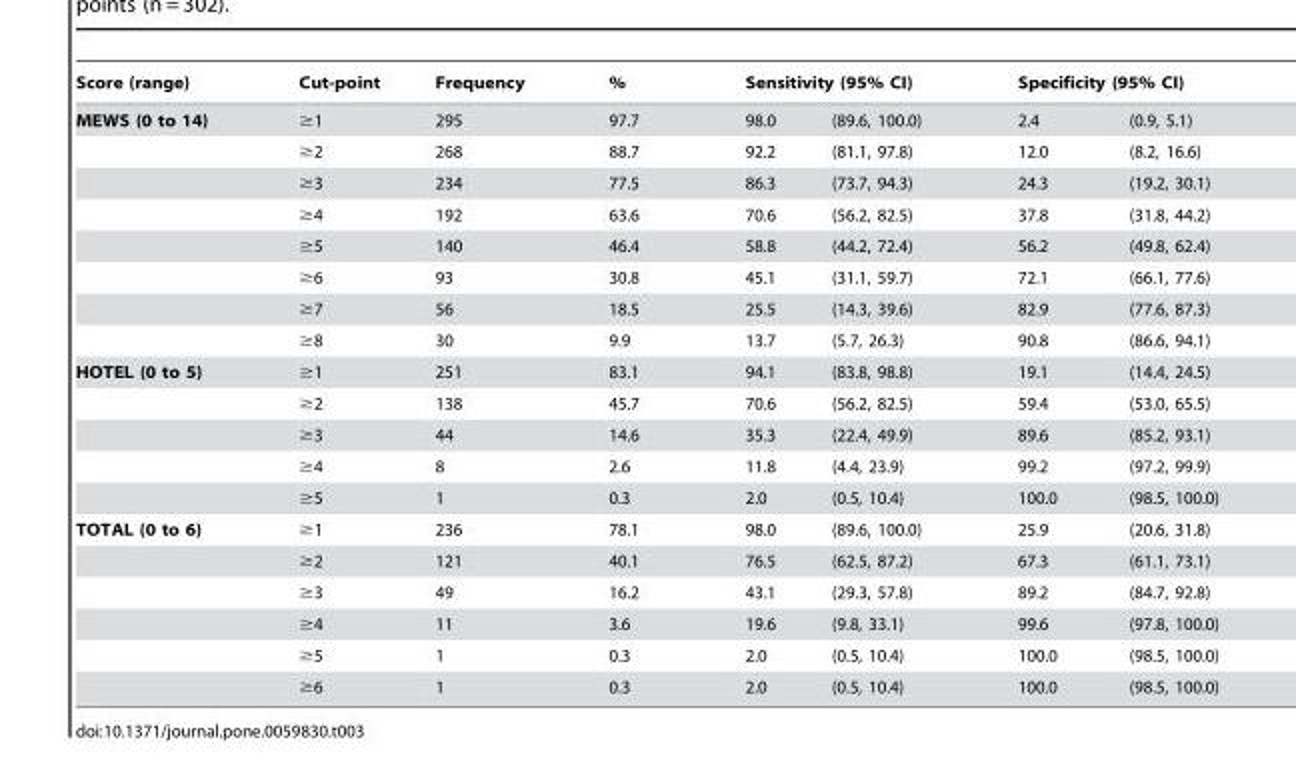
<table><thead><tr><td rowspan="2">Score (range) MEWS (0 to 14)</td><td rowspan="2">Cut-point ≥1</td><td rowspan="2">Frequency 295</td><td rowspan="2">% 97.7</td><td colspan="2">Sensitivity (95% CI)</td><td colspan="2">Specificity (95% CI)</td></tr><tr><td>98.0</td><td>(89.6, 100.0)</td><td>2.4</td><td>(0.9, 5.1)</td></tr></thead><tbody><tr><td></td><td>≥2</td><td>268</td><td>88.7</td><td>92.2</td><td>(81.1, 97.8)</td><td>12.0</td><td>(8.2, 16.6)</td></tr><tr><td></td><td>≥3</td><td>234</td><td>77.5</td><td>86.3</td><td>(73.7, 94.3)</td><td>24.3</td><td>(19.2, 30.1)</td></tr><tr><td></td><td>≥4</td><td>192</td><td>63.6</td><td>70.6</td><td>(56.2, 82.5)</td><td>37.8</td><td>(31.8, 44.2)</td></tr><tr><td></td><td>≥5</td><td>140</td><td>46.4</td><td>58.8</td><td>(44.2, 72.4)</td><td>56.2</td><td>(49.8, 62.4)</td></tr><tr><td></td><td>≥6</td><td>93</td><td>30.8</td><td>45.1</td><td>(31.1, 59.7)</td><td>72.1</td><td>(66.1, 77.6)</td></tr><tr><td></td><td>≥7</td><td>56</td><td>18.5</td><td>25.5</td><td>(14.3, 39.6)</td><td>82.9</td><td>(77.6, 87.3)</td></tr><tr><td></td><td>≥8</td><td>30</td><td>9.9</td><td>13.7</td><td>(5.7, 26.3)</td><td>90.8</td><td>(86.6, 94.1)</td></tr><tr><td rowspan="5">HOTEL (0 to 5)</td><td>≥1</td><td>251</td><td>83.1</td><td>94.1</td><td>(83.8, 98.8)</td><td>19.1</td><td>(14.4, 24.5)</td></tr><tr><td>≥2</td><td>138</td><td>45.7</td><td>70.6</td><td>(56.2, 82.5)</td><td>59.4</td><td>(53.0, 65.5)</td></tr><tr><td>≥3</td><td>44</td><td>14.6</td><td>35.3</td><td>(22.4, 49.9)</td><td>89.6</td><td>(85.2, 93.1)</td></tr><tr><td>≥4</td><td>8</td><td>2.6</td><td>11.8</td><td>(4.4, 23.9)</td><td>99.2</td><td>(97.2, 99.9)</td></tr><tr><td>≥5</td><td>1</td><td>0.3</td><td>2.0</td><td>(0.5, 10.4)</td><td>100.0</td><td>(98.5, 100.0)</td></tr><tr><td rowspan="6">TOTAL (0 to 6)</td><td>≥1</td><td>236</td><td>78.1</td><td>98.0</td><td>(89.6, 100.0)</td><td>25.9</td><td>(20.6, 31.8)</td></tr><tr><td>≥2</td><td>121</td><td>40.1</td><td>76.5</td><td>(62.5, 87.2)</td><td>67.3</td><td>(61.1, 73.1)</td></tr><tr><td>≥3</td><td>49</td><td>16.2</td><td>43.1</td><td>(29.3, 57.8)</td><td>89.2</td><td>(84.7, 92.8)</td></tr><tr><td>≥4</td><td>11</td><td>3.6</td><td>19.6</td><td>(9.8, 33.1)</td><td>99.6</td><td>(97.8, 100.0)</td></tr><tr><td>≥5</td><td>1</td><td>0.3</td><td>2.0</td><td>(0.5, 10.4)</td><td>100.0</td><td>(98.5, 100.0)</td></tr><tr><td>≥6</td><td>1</td><td>0.3</td><td>2.0</td><td>(0.5, 10.4)</td><td>100.0</td><td>(98.5, 100.0)</td></tr></tbody></table>